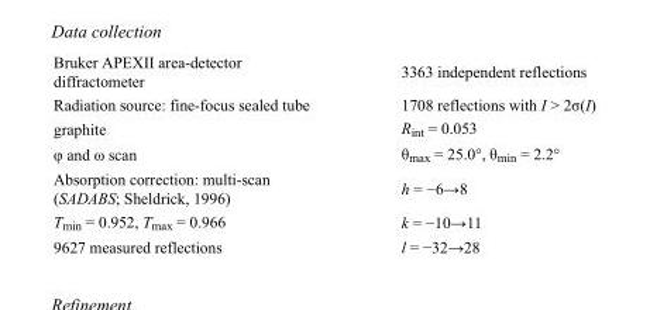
<table><tbody><tr><td>Bruker APEXII area-detector diffractometer</td><td>3363 independent reflections</td></tr><tr><td>Radiation source: fine-focus sealed tube</td><td>1708 reflections with I &gt; 2σ(I)</td></tr><tr><td>graphite</td><td>R<sub>int</sub> = 0.053</td></tr><tr><td>φ and ω scan</td><td>θ<sub>max</sub> = 25.0°, θ<sub>min</sub> = 2.2°</td></tr><tr><td>Absorption correction: multi-scan (SADABS; Sheldrick, 1996)</td><td>h = −6→8</td></tr><tr><td>T<sub>min</sub> = 0.952, T<sub>max</sub> = 0.966</td><td>k = −10→11</td></tr><tr><td>9627 measured reflections</td><td>l = −32→28</td></tr></tbody></table>